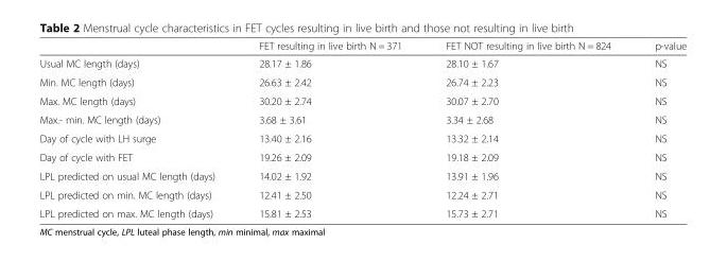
<table><thead><tr><td></td><td>FET resulting in live birth N = 371</td><td>FET NOT resulting in live birth N = 824</td><td>p-value</td></tr></thead><tbody><tr><td>Usual MC length (days)</td><td>28.17 ± 1.86</td><td>28.10 ± 1.67</td><td>NS</td></tr><tr><td>Min. MC length (days)</td><td>26.63 ± 2.42</td><td>26.74 ± 2.23</td><td>NS</td></tr><tr><td>Max. MC length (days)</td><td>30.20 ± 2.74</td><td>30.07 ± 2.70</td><td>NS</td></tr><tr><td>Max.- min. MC length (days)</td><td>3.68 ± 3.61</td><td>3.34 ± 2.68</td><td>NS</td></tr><tr><td>Day of cycle with LH surge</td><td>13.40 ± 2.16</td><td>13.32 ± 2.14</td><td>NS</td></tr><tr><td>Day of cycle with FET</td><td>19.26 ± 2.09</td><td>19.18 ± 2.09</td><td>NS</td></tr><tr><td>LPL predicted on usual MC length (days)</td><td>14.02 ± 1.92</td><td>13.91 ± 1.96</td><td>NS</td></tr><tr><td>LPL predicted on min. MC length (days)</td><td>12.41 ± 2.50</td><td>12.24 ± 2.71</td><td>NS</td></tr><tr><td>LPL predicted on max. MC length (days)</td><td>15.81 ± 2.53</td><td>15.73 ± 2.71</td><td>NS</td></tr></tbody></table>